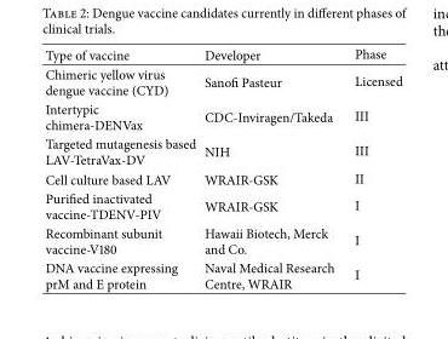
<table><thead><tr><td>Type of vaccine</td><td>Developer</td><td>Phase</td></tr></thead><tbody><tr><td>Chimeric yellow virus dengue vaccine (CYD)</td><td>Sanofi Pasteur</td><td>Licensed</td></tr><tr><td>Intertypic chimera-DENVax</td><td>CDC-Inviragen/Takeda</td><td>III</td></tr><tr><td>Targeted mutagenesis based LAV-TetraVax-DV</td><td>NIH</td><td>III</td></tr><tr><td>Cell culture based LAV</td><td>WRAIR-GSK</td><td>II</td></tr><tr><td>Purified inactivated vaccine-TDENV-PIV</td><td>WRAIR-GSK</td><td>I</td></tr><tr><td>Recombinant subunit vaccine-V180</td><td>Hawaii Biotech, Merck and Co.</td><td>I</td></tr><tr><td>DNA vaccine expressing prM and E protein</td><td>Naval Medical Research Centre, WRAIR</td><td>I</td></tr></tbody></table>